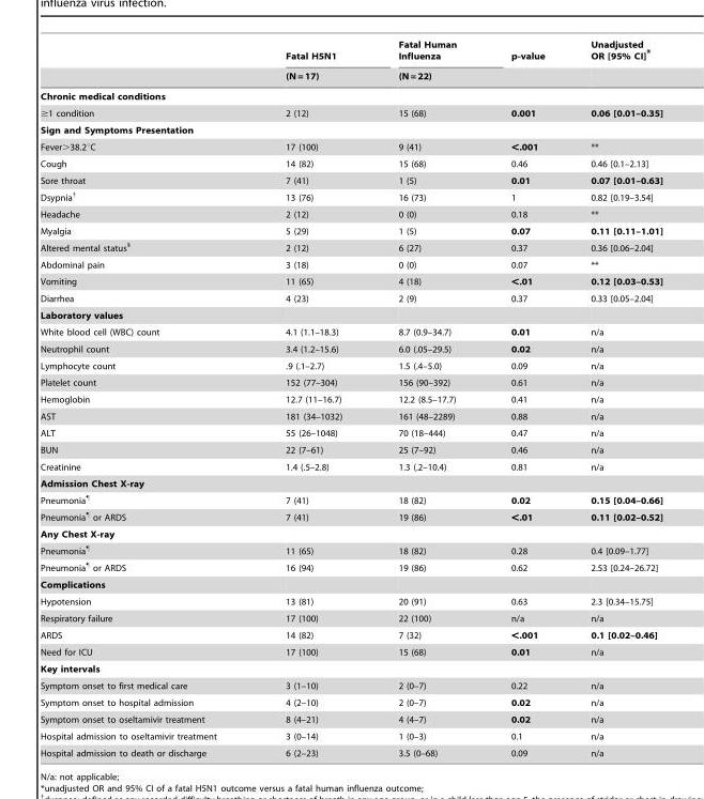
<table><thead><tr><td rowspan="2"></td><td rowspan="2">Fatal H5N1 (N = 17)</td><td rowspan="2">Fatal Human Influenza (N = 22)</td><td rowspan="2">p-value</td><td rowspan="2">Unadjusted OR [95% CI]*</td></tr><tr></tr></thead><tbody><tr><td colspan="5">Chronic medical conditions</td></tr><tr><td>≥1 condition</td><td>2 (12)</td><td>15 (68)</td><td>0.001</td><td>0.06 [0.01–0.35]</td></tr><tr><td colspan="5">Sign and Symptoms Presentation</td></tr><tr><td>Fever&gt;38.2°C</td><td>17 (100)</td><td>9 (41)</td><td>&lt;.001</td><td>**</td></tr><tr><td>Cough</td><td>14 (82)</td><td>15 (68)</td><td>0.46</td><td>0.46 [0.1–2.13]</td></tr><tr><td>Sore throat</td><td>7 (41)</td><td>1 (5)</td><td>0.01</td><td>0.07 [0.01–0.63]</td></tr><tr><td>Dsypnia†</td><td>13 (76)</td><td>16 (73)</td><td>1</td><td>0.82 [0.19–3.54]</td></tr><tr><td>Headache</td><td>2 (12)</td><td>0 (0)</td><td>0.18</td><td>**</td></tr><tr><td>Myalgia</td><td>5 (29)</td><td>1 (5)</td><td>0.07</td><td>0.11 [0.11–1.01]</td></tr><tr><td>Altered mental status§</td><td>2 (12)</td><td>6 (27)</td><td>0.37</td><td>0.36 [0.06–2.04]</td></tr><tr><td>Abdominal pain</td><td>3 (18)</td><td>0 (0)</td><td>0.07</td><td>**</td></tr><tr><td>Vomiting</td><td>11 (65)</td><td>4 (18)</td><td>&lt;.01</td><td>0.12 [0.03–0.53]</td></tr><tr><td>Diarrhea</td><td>4 (23)</td><td>2 (9)</td><td>0.37</td><td>0.33 [0.05–2.04]</td></tr><tr><td colspan="5">Laboratory values</td></tr><tr><td>White blood cell (WBC) count</td><td>4.1 (1.1–18.3)</td><td>8.7 (0.9–34.7)</td><td>0.01</td><td>n/a</td></tr><tr><td>Neutrophil count</td><td>3.4 (1.2–15.6)</td><td>6.0 (.05–29.5)</td><td>0.02</td><td>n/a</td></tr><tr><td>Lymphocyte count</td><td>.9 (.1–2.7)</td><td>1.5 (.4–5.0)</td><td>0.09</td><td>n/a</td></tr><tr><td>Platelet count</td><td>152 (77–304)</td><td>156 (90–392)</td><td>0.61</td><td>n/a</td></tr><tr><td>Hemoglobin</td><td>12.7 (11–16.7)</td><td>12.2 (8.5–17.7)</td><td>0.41</td><td>n/a</td></tr><tr><td>AST</td><td>181 (34–1032)</td><td>161 (48–2289)</td><td>0.88</td><td>n/a</td></tr><tr><td>ALT</td><td>55 (26–1048)</td><td>70 (18–444)</td><td>0.47</td><td>n/a</td></tr><tr><td>BUN</td><td>22 (7–61)</td><td>25 (7–92)</td><td>0.46</td><td>n/a</td></tr><tr><td>Creatinine</td><td>1.4 (.5–2.8)</td><td>1.3 (.2–10.4)</td><td>0.81</td><td>n/a</td></tr><tr><td colspan="5">Admission Chest X-ray</td></tr><tr><td>Pneumonia¶</td><td>7 (41)</td><td>18 (82)</td><td>0.02</td><td>0.15 [0.04–0.66]</td></tr><tr><td>Pneumonia¶ or ARDS</td><td>7 (41)</td><td>19 (86)</td><td>&lt;.01</td><td>0.11 [0.02–0.52]</td></tr><tr><td colspan="5">Any Chest X-ray</td></tr><tr><td>Pneumonia¶</td><td>11 (65)</td><td>18 (82)</td><td>0.28</td><td>0.4 [0.09–1.77]</td></tr><tr><td>Pneumonia¶ or ARDS</td><td>16 (94)</td><td>19 (86)</td><td>0.62</td><td>2.53 [0.24–26.72]</td></tr><tr><td colspan="5">Complications</td></tr><tr><td>Hypotension</td><td>13 (81)</td><td>20 (91)</td><td>0.63</td><td>2.3 [0.34–15.75]</td></tr><tr><td>Respiratory failure</td><td>17 (100)</td><td>22 (100)</td><td>n/a</td><td>n/a</td></tr><tr><td>ARDS</td><td>14 (82)</td><td>7 (32)</td><td>&lt;.001</td><td>0.1 [0.02–0.46]</td></tr><tr><td>Need for ICU</td><td>17 (100)</td><td>15 (68)</td><td>0.01</td><td>n/a</td></tr><tr><td colspan="5">Key intervals</td></tr><tr><td>Symptom onset to first medical care</td><td>3 (1–10)</td><td>2 (0–7)</td><td>0.22</td><td>n/a</td></tr><tr><td>Symptom onset to hospital admission</td><td>4 (2–10)</td><td>2 (0–7)</td><td>0.02</td><td>n/a</td></tr><tr><td>Symptom onset to oseltamivir treatment</td><td>8 (4–21)</td><td>4 (4–7)</td><td>0.02</td><td>n/a</td></tr><tr><td>Hospital admission to oseltamivir treatment</td><td>3 (0–14)</td><td>1 (0–3)</td><td>0.1</td><td>n/a</td></tr><tr><td>Hospital admission to death or discharge</td><td>6 (2–23)</td><td>3.5 (0–68)</td><td>0.09</td><td>n/a</td></tr></tbody></table>